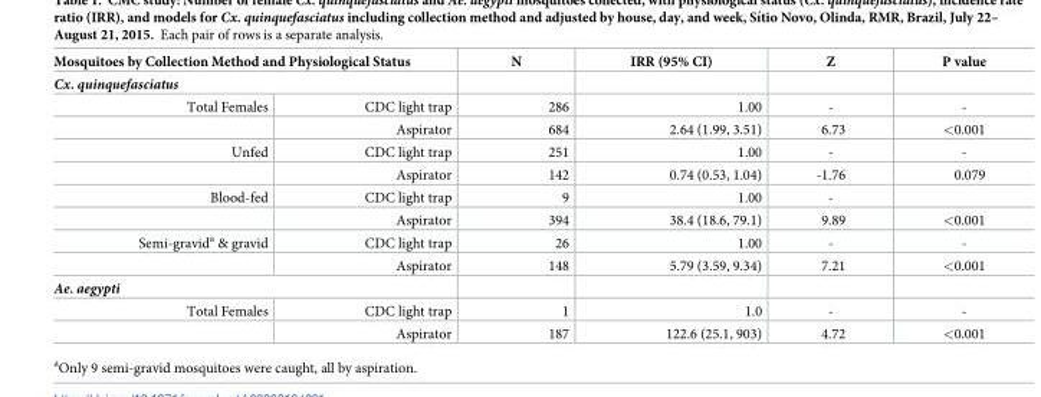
<table><thead><tr><td rowspan="2" colspan="2">Mosquitoes by Collection Method and Physiological Status Cx. quinquefasciatus</td><td rowspan="3">N 286</td><td rowspan="3">IRR (95% CI) 1.00</td><td rowspan="3">Z -</td><td rowspan="3">P value -</td></tr><tr></tr><tr><td>Total Females</td><td>CDC light trap</td></tr></thead><tbody><tr><td></td><td>Aspirator</td><td>684</td><td>2.64 (1.99, 3.51)</td><td>6.73</td><td>&lt;0.001</td></tr><tr><td rowspan="2">Unfed</td><td>CDC light trap</td><td>251</td><td>1.00</td><td>-</td><td>-</td></tr><tr><td>Aspirator</td><td>142</td><td>0.74 (0.53, 1.04)</td><td>-1.76</td><td>0.079</td></tr><tr><td rowspan="2">Blood-fed</td><td>CDC light trap</td><td>9</td><td>1.00</td><td>-</td><td></td></tr><tr><td>Aspirator</td><td>394</td><td>38.4 (18.6, 79.1)</td><td>9.89</td><td>&lt;0.001</td></tr><tr><td rowspan="2">Semi-gravid<sup>a</sup> &amp; gravid</td><td>CDC light trap</td><td>26</td><td>1.00</td><td>-</td><td>-</td></tr><tr><td>Aspirator</td><td>148</td><td>5.79 (3.59, 9.34)</td><td>7.21</td><td>&lt;0.001</td></tr><tr><td colspan="6">Ae. aegypti</td></tr><tr><td rowspan="2">Total Females</td><td>CDC light trap</td><td>1</td><td>1.0</td><td>-</td><td>-</td></tr><tr><td>Aspirator</td><td>187</td><td>122.6 (25.1, 903)</td><td>4.72</td><td>&lt;0.001</td></tr></tbody></table>